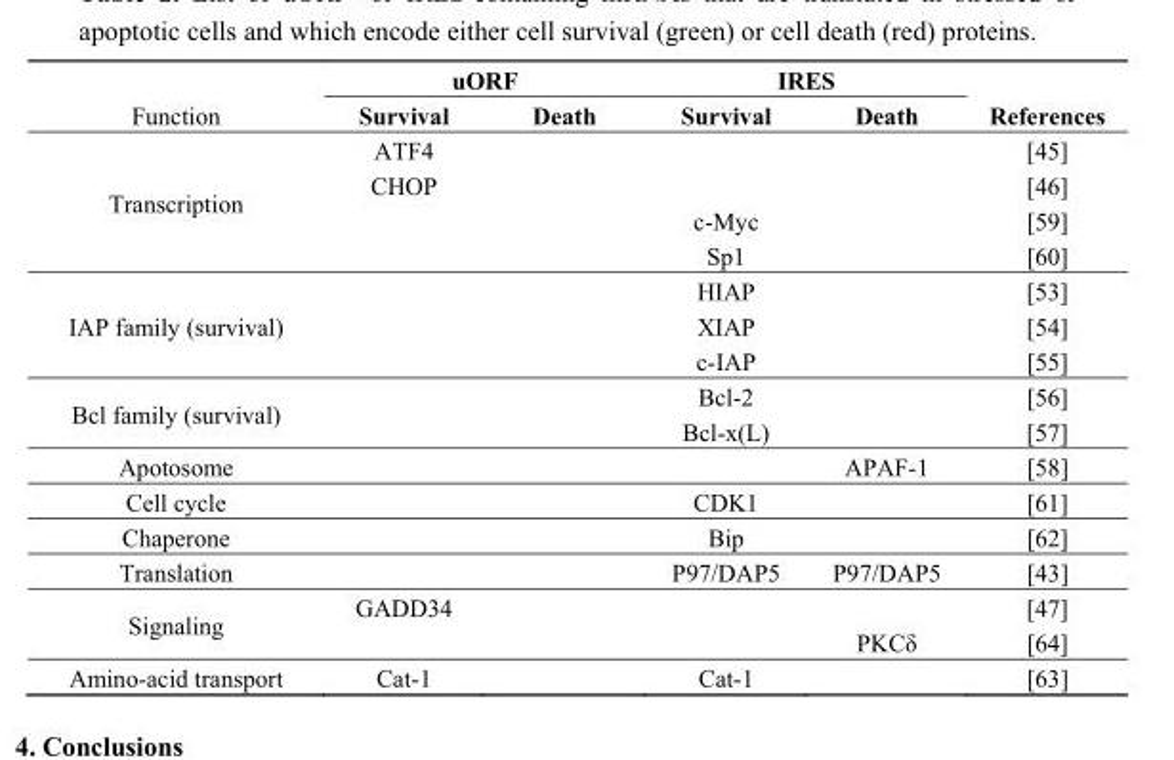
<table><thead><tr><td rowspan="2">Function</td><td colspan="2">uORF</td><td colspan="2">IRES</td><td rowspan="2">References</td></tr><tr><td>Survival</td><td>Death</td><td>Survival</td><td>Death</td></tr></thead><tbody><tr><td rowspan="4">Transcription</td><td>ATF4</td><td></td><td></td><td></td><td>[45]</td></tr><tr><td>CHOP</td><td></td><td></td><td></td><td>[46]</td></tr><tr><td></td><td></td><td>c-Myc</td><td></td><td>[59]</td></tr><tr><td></td><td></td><td>Sp1</td><td></td><td>[60]</td></tr><tr><td rowspan="3">IAP family (survival)</td><td></td><td></td><td>HIAP</td><td></td><td>[53]</td></tr><tr><td></td><td></td><td>XIAP</td><td></td><td>[54]</td></tr><tr><td></td><td></td><td>c-IAP</td><td></td><td>[55]</td></tr><tr><td rowspan="2">Bcl family (survival)</td><td></td><td></td><td>Bcl-2</td><td></td><td>[56]</td></tr><tr><td></td><td></td><td>Bcl-x(L)</td><td></td><td>[57]</td></tr><tr><td>Apotosome</td><td></td><td></td><td></td><td>APAF-1</td><td>[58]</td></tr><tr><td>Cell cycle</td><td></td><td></td><td>CDK1</td><td></td><td>[61]</td></tr><tr><td>Chaperone</td><td></td><td></td><td>Bip</td><td></td><td>[62]</td></tr><tr><td>Translation</td><td></td><td></td><td>P97/DAP5</td><td>P97/DAP5</td><td>[43]</td></tr><tr><td rowspan="2">Signaling</td><td>GADD34</td><td></td><td></td><td></td><td>[47]</td></tr><tr><td></td><td></td><td></td><td>PKCδ</td><td>[64]</td></tr><tr><td>Amino-acid transport</td><td>Cat-1</td><td></td><td>Cat-1</td><td></td><td>[63]</td></tr></tbody></table>